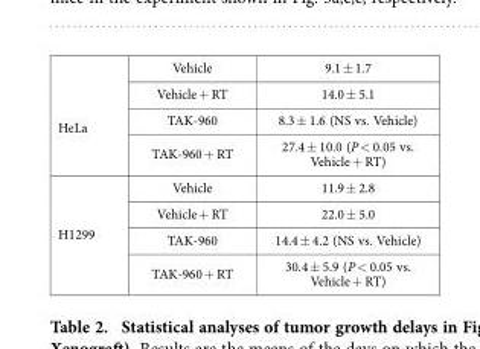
<table><tbody><tr><td rowspan="4">HeLa</td><td>Vehicle</td><td>9.1 ± 1.7</td></tr><tr><td>Vehicle + RT</td><td>14.0 ± 5.1</td></tr><tr><td>TAK-960</td><td>8.3 ± 1.6 (NS vs. Vehicle)</td></tr><tr><td>TAK-960 + RT</td><td>27.4 ± 10.0 (P &lt; 0.05 vs. Vehicle + RT)</td></tr><tr><td rowspan="4">H1299</td><td>Vehicle</td><td>11.9 ± 2.8</td></tr><tr><td>Vehicle + RT</td><td>22.0 ± 5.0</td></tr><tr><td>TAK-960</td><td>14.4 ± 4.2 (NS vs. Vehicle)</td></tr><tr><td>TAK-960 + RT</td><td>30.4 ± 5.9 (P &lt; 0.05 vs. Vehicle + RT)</td></tr></tbody></table>